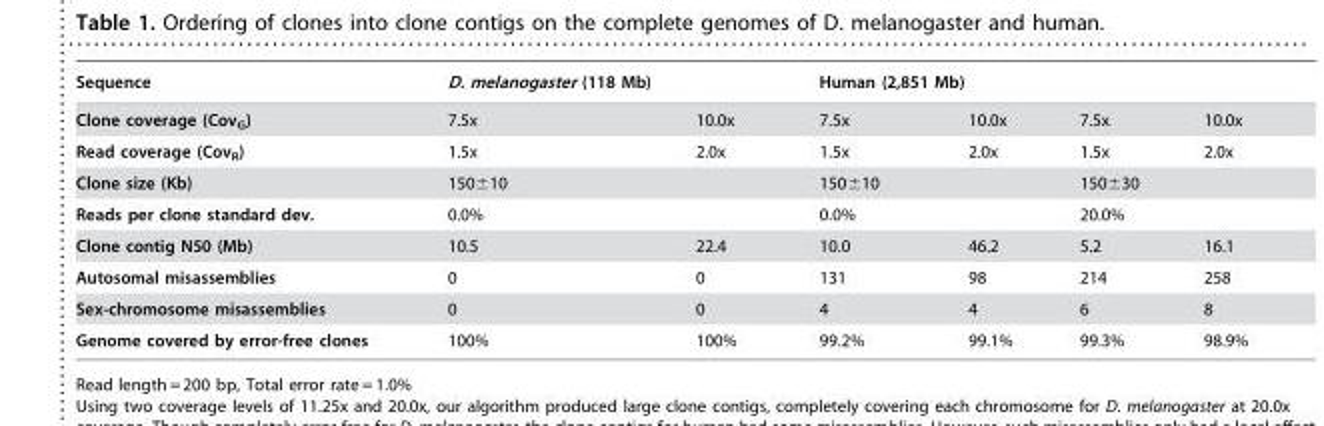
<table><thead><tr><td rowspan="2">Sequence Clone coverage (Cov<sub>G</sub>)</td><td colspan="2">D. melanogaster (118 Mb)</td><td colspan="4">Human (2,851 Mb)</td></tr><tr><td>7.5x</td><td>10.0x</td><td>7.5x</td><td>10.0x</td><td>7.5x</td><td>10.0x</td></tr></thead><tbody><tr><td>Read coverage (Cov<sub>R</sub>)</td><td>1.5x</td><td>2.0x</td><td>1.5x</td><td>2.0x</td><td>1.5x</td><td>2.0x</td></tr><tr><td>Clone size (Kb)</td><td colspan="2">150±10</td><td colspan="2">150±10</td><td colspan="2">150±30</td></tr><tr><td>Reads per clone standard dev.</td><td colspan="2">0.0%</td><td colspan="2">0.0%</td><td>20.0%</td><td></td></tr><tr><td>Clone contig N50 (Mb)</td><td>10.5</td><td>22.4</td><td>10.0</td><td>46.2</td><td>5.2</td><td>16.1</td></tr><tr><td>Autosomal misassemblies</td><td>0</td><td>0</td><td>131</td><td>98</td><td>214</td><td>258</td></tr><tr><td>Sex-chromosome misassemblies</td><td>0</td><td>0</td><td>4</td><td>4</td><td>6</td><td>8</td></tr><tr><td>Genome covered by error-free clones</td><td>100%</td><td>100%</td><td>99.2%</td><td>99.1%</td><td>99.3%</td><td>98.9%</td></tr></tbody></table>